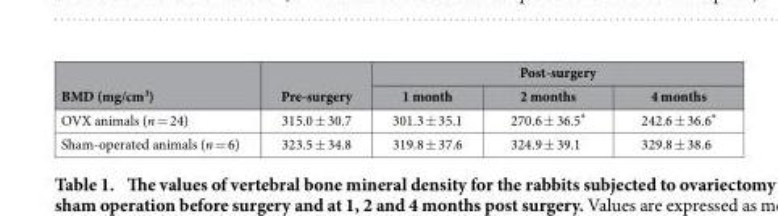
<table><thead><tr><td rowspan="2">BMD (mg/cm<sup>3</sup>)</td><td rowspan="2">Pre-surgery</td><td colspan="3">Post-surgery</td></tr><tr><td>1 month</td><td>2 months</td><td>4 months</td></tr></thead><tbody><tr><td>OVX animals (n = 24)</td><td>315.0 ± 30.7</td><td>301.3 ± 35.1</td><td>270.6 ± 36.5*</td><td>242.6 ± 36.6*</td></tr><tr><td>Sham-operated animals (n = 6)</td><td>323.5 ± 34.8</td><td>319.8 ± 37.6</td><td>324.9 ± 39.1</td><td>329.8 ± 38.6</td></tr></tbody></table>